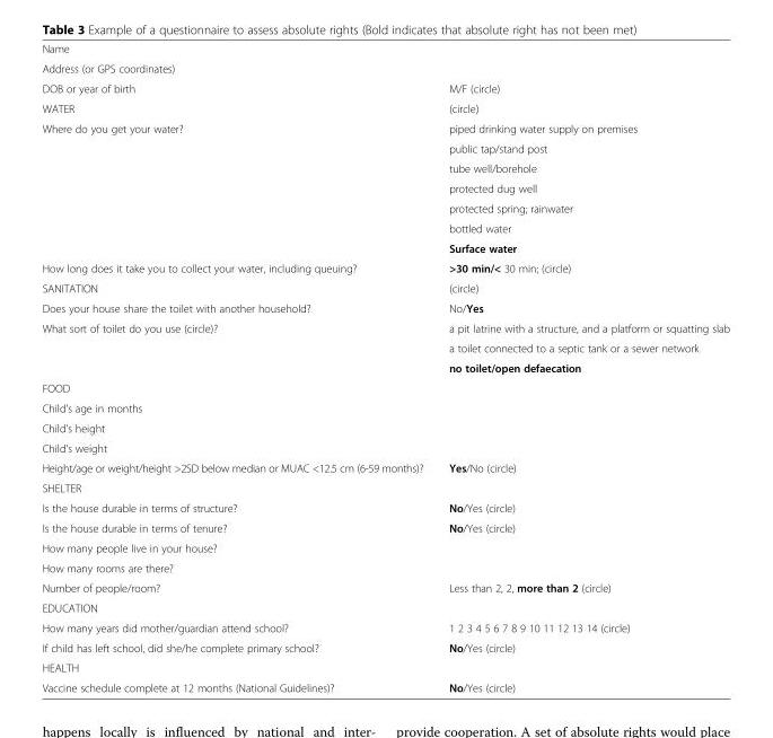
<table><tbody><tr><td colspan="2">Name</td></tr><tr><td colspan="2">Address (or GPS coordinates)</td></tr><tr><td>DOB or year of birth</td><td>M/F (circle)</td></tr><tr><td>WATER</td><td>(circle)</td></tr><tr><td rowspan="7">Where do you get your water?</td><td>piped drinking water supply on premises</td></tr><tr><td>public tap/stand post</td></tr><tr><td>tube well/borehole</td></tr><tr><td>protected dug well</td></tr><tr><td>protected spring; rainwater</td></tr><tr><td>bottled water</td></tr><tr><td>Surface water</td></tr><tr><td>How long does it take you to collect your water, including queuing?</td><td>&gt;30 min/&lt; 30 min; (circle)</td></tr><tr><td>SANITATION</td><td>(circle)</td></tr><tr><td>Does your house share the toilet with another household?</td><td>No/Yes</td></tr><tr><td rowspan="3">What sort of toilet do you use (circle)?</td><td>a pit latrine with a structure, and a platform or squatting slab</td></tr><tr><td>a toilet connected to a septic tank or a sewer network</td></tr><tr><td>no toilet/open defaecation</td></tr><tr><td colspan="2">FOOD</td></tr><tr><td colspan="2">Child&#x27;s age in months</td></tr><tr><td colspan="2">Child&#x27;s height</td></tr><tr><td colspan="2">Child&#x27;s weight</td></tr><tr><td>Height/age or weight/height &gt;2SD below median or MUAC &lt;12.5 cm (6-59 months)?</td><td>Yes/No (circle)</td></tr><tr><td colspan="2">SHELTER</td></tr><tr><td>Is the house durable in terms of structure?</td><td>No/Yes (circle)</td></tr><tr><td>Is the house durable in terms of tenure?</td><td>No/Yes (circle)</td></tr><tr><td colspan="2">How many people live in your house?</td></tr><tr><td colspan="2">How many rooms are there?</td></tr><tr><td>Number of people/room?</td><td>Less than 2, 2, more than 2 (circle)</td></tr><tr><td colspan="2">EDUCATION</td></tr><tr><td>How many years did mother/guardian attend school?</td><td>1 2 3 4 5 6 7 8 9 10 11 12 13 14 (circle)</td></tr><tr><td>If child has left school, did she/he complete primary school?</td><td>No/Yes (circle)</td></tr><tr><td colspan="2">HEALTH</td></tr><tr><td>Vaccine schedule complete at 12 months (National Guidelines)?</td><td>No/Yes (circle)</td></tr></tbody></table>